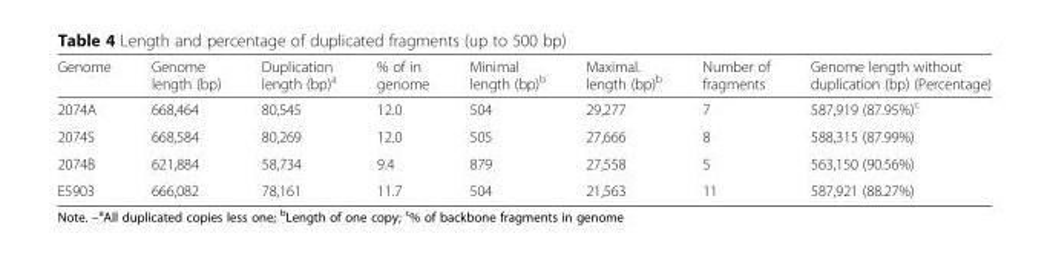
<table><thead><tr><td>Genome</td><td>Genome length (bp)</td><td>Duplication length (bp)<sup>a</sup></td><td>% of in genome</td><td>Minimal length (bp)<sup>b</sup></td><td>Maximal. length (bp)<sup>b</sup></td><td>Number of fragments</td><td>Genome length without duplication (bp) (Percentage)</td></tr></thead><tbody><tr><td>2074A</td><td>668,464</td><td>80,545</td><td>12.0</td><td>504</td><td>29,277</td><td>7</td><td>587,919 (87.95%)<sup>c</sup></td></tr><tr><td>2074S</td><td>668,584</td><td>80,269</td><td>12.0</td><td>505</td><td>27,666</td><td>8</td><td>588,315 (87.99%)</td></tr><tr><td>2074B</td><td>621,884</td><td>58,734</td><td>9.4</td><td>879</td><td>27,558</td><td>5</td><td>563,150 (90.56%)</td></tr><tr><td>E5903</td><td>666,082</td><td>78,161</td><td>11.7</td><td>504</td><td>21,563</td><td>11</td><td>587,921 (88.27%)</td></tr></tbody></table>